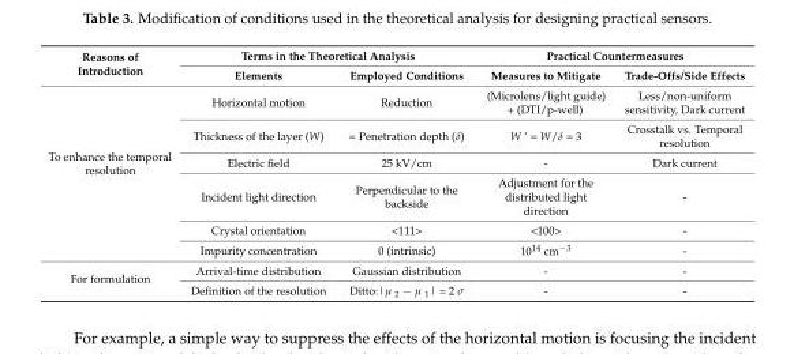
<table><thead><tr><td rowspan="2">Reasons of Introduction</td><td colspan="2">Terms in the Theoretical Analysis</td><td colspan="2">Practical Countermeasures</td></tr><tr><td>Elements</td><td>Employed Conditions</td><td>Measures to Mitigate</td><td>Trade-Offs/Side Effects</td></tr></thead><tbody><tr><td rowspan="6">To enhance the temporal resolution</td><td>Horizontal motion</td><td>Reduction</td><td>(Microlens/light guide) + (DTI/p-well)</td><td>Less/non-uniform sensitivity, Dark current</td></tr><tr><td>Thickness of the layer (W)</td><td>= Penetration depth (δ)</td><td>W ’ = W/δ = 3</td><td>Crosstalk vs. Temporal resolution</td></tr><tr><td>Electric field</td><td>25 kV/cm</td><td>-</td><td>Dark current</td></tr><tr><td>Incident light direction</td><td>Perpendicular to the backside</td><td>Adjustment for the distributed light direction</td><td>-</td></tr><tr><td>Crystal orientation</td><td>&lt;111&gt;</td><td>&lt;100&gt;</td><td>-</td></tr><tr><td>Impurity concentration</td><td>0 (intrinsic)</td><td>10<sup>14</sup> cm<sup>−3</sup></td><td>-</td></tr><tr><td rowspan="2">For formulation</td><td>Arrival-time distribution</td><td>Gaussian distribution</td><td>-</td><td>-</td></tr><tr><td>Definition of the resolution</td><td>Ditto:|µ <sub>2</sub> − µ <sub>1</sub>| = 2 σ</td><td>-</td><td>-</td></tr></tbody></table>